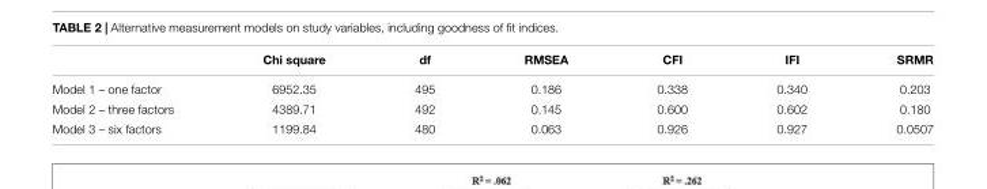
<table><thead><tr><td></td><td>Chi square</td><td>df</td><td>RMSEA</td><td>CFI</td><td>IFI</td><td>SRMR</td></tr></thead><tbody><tr><td>Model 1 – one factor</td><td>6952.35</td><td>495</td><td>0.186</td><td>0.338</td><td>0.340</td><td>0.203</td></tr><tr><td>Model 2 – three factors</td><td>4389.71</td><td>492</td><td>0.145</td><td>0.600</td><td>0.602</td><td>0.180</td></tr><tr><td>Model 3 – six factors</td><td>1199.84</td><td>480</td><td>0.063</td><td>0.926</td><td>0.927</td><td>0.0507</td></tr></tbody></table>